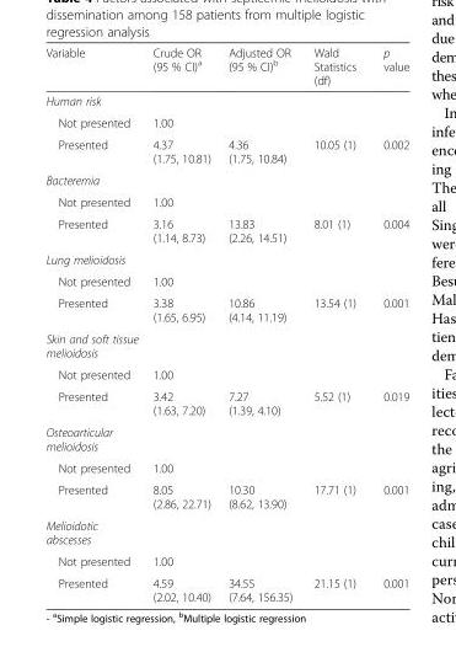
<table><thead><tr><td>Variable</td><td>Crude OR (95 % CI)<sup>a</sup></td><td>Adjusted OR (95 % CI)<sup>b</sup></td><td>Wald Statistics (df)</td><td>p value</td></tr></thead><tbody><tr><td colspan="5">Human risk</td></tr><tr><td>Not presented</td><td>1.00</td><td></td><td></td><td></td></tr><tr><td>Presented</td><td>4.37 (1.75, 10.81)</td><td>4.36 (1.75, 10.84)</td><td>10.05 (1)</td><td>0.002</td></tr><tr><td colspan="5">Bacteremia</td></tr><tr><td>Not presented</td><td>1.00</td><td></td><td></td><td></td></tr><tr><td>Presented</td><td>3.16 (1.14, 8.73)</td><td>13.83 (2.26, 14.51)</td><td>8.01 (1)</td><td>0.004</td></tr><tr><td colspan="5">Lung melioidosis</td></tr><tr><td>Not presented</td><td>1.00</td><td></td><td></td><td></td></tr><tr><td>Presented</td><td>3.38 (1.65, 6.95)</td><td>10.86 (4.14, 11.19)</td><td>13.54 (1)</td><td>0.001</td></tr><tr><td colspan="5">Skin and soft tissue melioidosis</td></tr><tr><td>Not presented</td><td>1.00</td><td></td><td></td><td></td></tr><tr><td>Presented</td><td>3.42 (1.63, 7.20)</td><td>7.27 (1.39, 4.10)</td><td>5.52 (1)</td><td>0.019</td></tr><tr><td colspan="5">Osteoarticular melioidosis</td></tr><tr><td>Not presented</td><td>1.00</td><td></td><td></td><td></td></tr><tr><td>Presented</td><td>8.05 (2.86, 22.71)</td><td>10.30 (8.62, 13.90)</td><td>17.71 (1)</td><td>0.001</td></tr><tr><td colspan="5">Melioidotic abscesses</td></tr><tr><td>Not presented</td><td>1.00</td><td></td><td></td><td></td></tr><tr><td>Presented</td><td>4.59 (2.02, 10.40)</td><td>34.55 (7.64, 156.35)</td><td>21.15 (1)</td><td>0.001</td></tr></tbody></table>